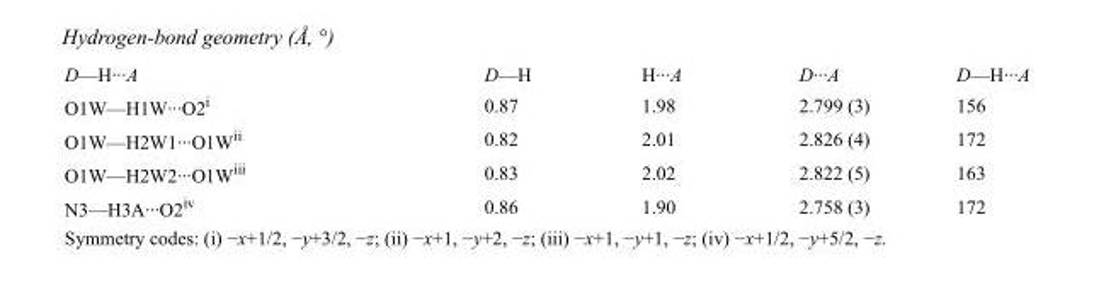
<table><tbody><tr><td>D—H···A</td><td>D—H</td><td>H···A</td><td>D···A</td><td>D—H···A</td></tr><tr><td>O1W—H1W···O2<sup>i</sup></td><td>0.87</td><td>1.98</td><td>2.799 (3)</td><td>156</td></tr><tr><td>O1W—H2W1···O1W<sup>ii</sup></td><td>0.82</td><td>2.01</td><td>2.826 (4)</td><td>172</td></tr><tr><td>O1W—H2W2···O1W<sup>iii</sup></td><td>0.83</td><td>2.02</td><td>2.822 (5)</td><td>163</td></tr><tr><td>N3—H3A···O2<sup>iv</sup></td><td>0.86</td><td>1.90</td><td>2.758 (3)</td><td>172</td></tr></tbody></table>